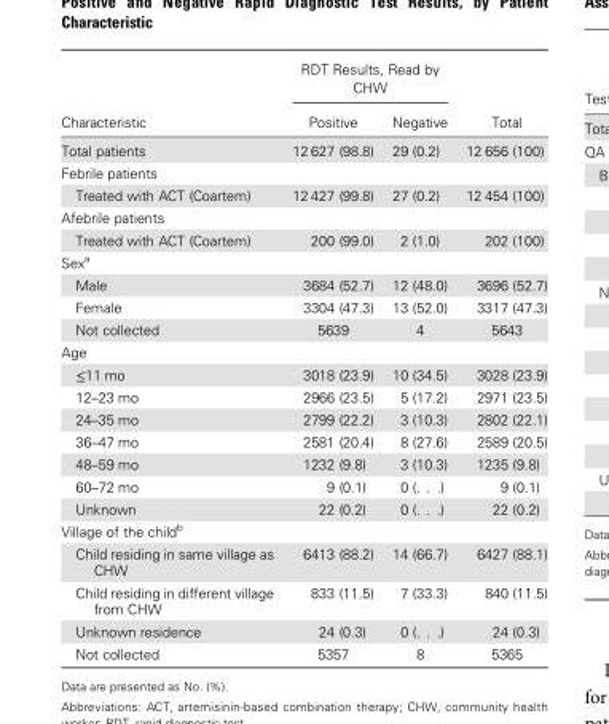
<table><thead><tr><td rowspan="2">Characteristic</td><td colspan="2">RDT Results, Read by CHW</td><td rowspan="2">Total</td></tr><tr><td>Positive</td><td>Negative</td></tr></thead><tbody><tr><td>Total patients</td><td>12 627 (98.8)</td><td>29 (0.2)</td><td>12 656 (100)</td></tr><tr><td colspan="4">Febrile patients</td></tr><tr><td>Treated with ACT (Coartem)</td><td>12 427 (99.8)</td><td>27 (0.2)</td><td>12 454 (100)</td></tr><tr><td colspan="4">Afebrile patients</td></tr><tr><td>Treated with ACT (Coartem)</td><td>200 (99.0)</td><td>2 (1.0)</td><td>202 (100)</td></tr><tr><td colspan="4">Sex<sup>a</sup></td></tr><tr><td>Male</td><td>3684 (52.7)</td><td>12 (48.0)</td><td>3696 (52.7)</td></tr><tr><td>Female</td><td>3304 (47.3)</td><td>13 (52.0)</td><td>3317 (47.3)</td></tr><tr><td>Not collected</td><td>5639</td><td>4</td><td>5643</td></tr><tr><td colspan="4">Age</td></tr><tr><td>≤11 mo</td><td>3018 (23.9)</td><td>10 (34.5)</td><td>3028 (23.9)</td></tr><tr><td>12–23 mo</td><td>2966 (23.5)</td><td>5 (17.2)</td><td>2971 (23.5)</td></tr><tr><td>24–35 mo</td><td>2799 (22.2)</td><td>3 (10.3)</td><td>2802 (22.1)</td></tr><tr><td>36–47 mo</td><td>2581 (20.4)</td><td>8 (27.6)</td><td>2589 (20.5)</td></tr><tr><td>48–59 mo</td><td>1232 (9.8)</td><td>3 (10.3)</td><td>1235 (9.8)</td></tr><tr><td>60–72 mo</td><td>9 (0.1)</td><td>0 (. . .)</td><td>9 (0.1)</td></tr><tr><td>Unknown</td><td>22 (0.2)</td><td>0 (. . .)</td><td>22 (0.2)</td></tr><tr><td colspan="4">Village of the child<sup>b</sup></td></tr><tr><td>Child residing in same village as CHW</td><td>6413 (88.2)</td><td>14 (66.7)</td><td>6427 (88.1)</td></tr><tr><td>Child residing in different village from CHW</td><td>833 (11.5)</td><td>7 (33.3)</td><td>840 (11.5)</td></tr><tr><td>Unknown residence</td><td>24 (0.3)</td><td>0 (. . .)</td><td>24 (0.3)</td></tr><tr><td>Not collected</td><td>5357</td><td>8</td><td>5365</td></tr></tbody></table>